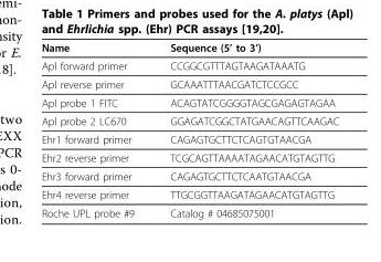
<table><thead><tr><td>Name</td><td>Sequence (5’ to 3’)</td></tr></thead><tbody><tr><td>Apl forward primer</td><td>CCGGCGTTTAGTAAGATAAATG</td></tr><tr><td>Apl reverse primer</td><td>GCAAATTTAACGATCTCCGCC</td></tr><tr><td>Apl probe 1 FITC</td><td>ACAGTATCGGGGTAGCGAGAGTAGAA</td></tr><tr><td>Apl probe 2 LC670</td><td>GGAGATCGGCTATGAACAGTTCAAGAC</td></tr><tr><td>Ehr1 forward primer</td><td>CAGAGTGCTTCTCAGTGTAACGA</td></tr><tr><td>Ehr2 reverse primer</td><td>TCGCAGTTAAAATAGAACATGTAGTTG</td></tr><tr><td>Ehr3 forward primer</td><td>CAGAGTGCTTCTCAATGTAACGA</td></tr><tr><td>Ehr4 reverse primer</td><td>TTGCGGTTAAGATAGAACATGTAGTTG</td></tr><tr><td>Roche UPL probe #9</td><td>Catalog # 04685075001</td></tr></tbody></table>